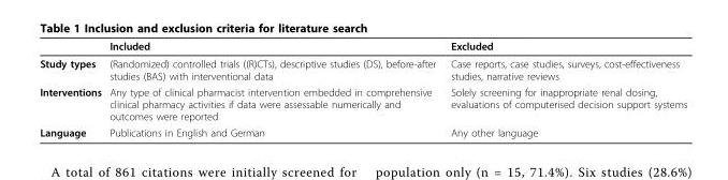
<table><thead><tr><td></td><td>Included</td><td>Excluded</td></tr></thead><tbody><tr><td>Study types</td><td>(Randomized) controlled trials ((R)CTs), descriptive studies (DS), before-after studies (BAS) with interventional data</td><td>Case reports, case studies, surveys, cost-effectiveness studies, narrative reviews</td></tr><tr><td>Interventions</td><td>Any type of clinical pharmacist intervention embedded in comprehensive clinical pharmacy activities if data were assessable numerically and outcomes were reported</td><td>Solely screening for inappropriate renal dosing, evaluations of computerised decision support systems</td></tr><tr><td>Language</td><td>Publications in English and German</td><td>Any other language</td></tr></tbody></table>